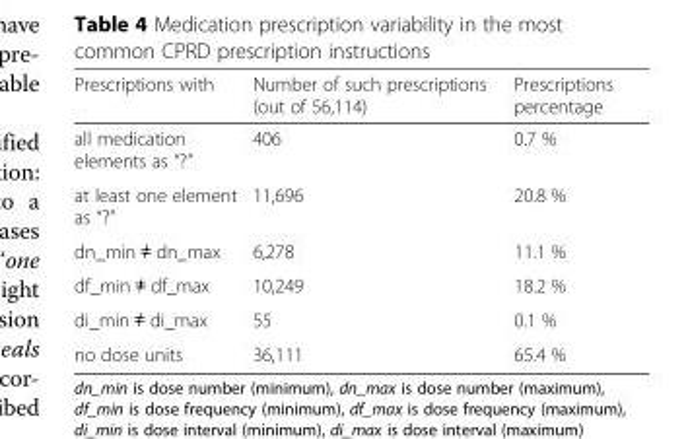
<table><thead><tr><td>Prescriptions with</td><td>Number of such prescriptions (out of 56,114)</td><td>Prescriptions percentage</td></tr></thead><tbody><tr><td>all medication elements as “?”</td><td>406</td><td>0.7 %</td></tr><tr><td>at least one element as “?”</td><td>11,696</td><td>20.8 %</td></tr><tr><td>dn_min ≠ dn_max</td><td>6,278</td><td>11.1 %</td></tr><tr><td>df_min ≠ df_max</td><td>10,249</td><td>18.2 %</td></tr><tr><td>di_min ≠ di_max</td><td>55</td><td>0.1 %</td></tr><tr><td>no dose units</td><td>36,111</td><td>65.4 %</td></tr></tbody></table>